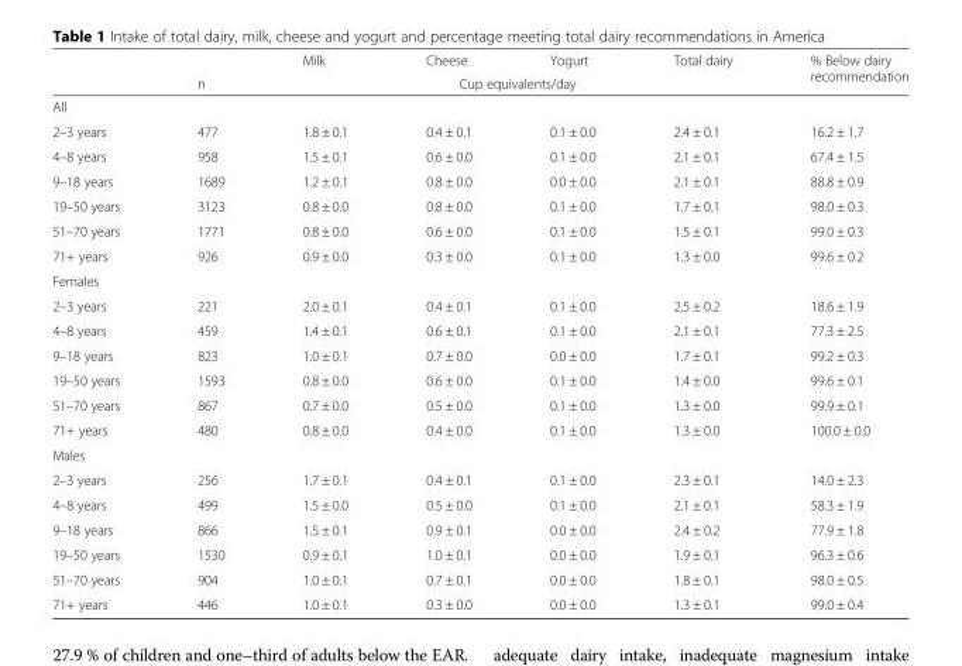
<table><thead><tr><td rowspan="2"></td><td rowspan="2">n</td><td>Milk</td><td>Cheese</td><td>Yogurt</td><td>Total dairy</td><td rowspan="2">% Below dairy recommendation</td></tr><tr><td colspan="4">Cup equivalents/day</td></tr></thead><tbody><tr><td colspan="7">All</td></tr><tr><td>2–3 years</td><td>477</td><td>1.8 ± 0.1</td><td>0.4 ± 0.1</td><td>0.1 ± 0.0</td><td>2.4 ± 0.1</td><td>16.2 ± 1.7</td></tr><tr><td>4–8 years</td><td>958</td><td>1.5 ± 0.1</td><td>0.6 ± 0.0</td><td>0.1 ± 0.0</td><td>2.1 ± 0.1</td><td>67.4 ± 1.5</td></tr><tr><td>9–18 years</td><td>1689</td><td>1.2 ± 0.1</td><td>0.8 ± 0.0</td><td>0.0 ± 0.0</td><td>2.1 ± 0.1</td><td>88.8 ± 0.9</td></tr><tr><td>19–50 years</td><td>3123</td><td>0.8 ± 0.0</td><td>0.8 ± 0.0</td><td>0.1 ± 0.0</td><td>1.7 ± 0.1</td><td>98.0 ± 0.3</td></tr><tr><td>51–70 years</td><td>1771</td><td>0.8 ± 0.0</td><td>0.6 ± 0.0</td><td>0.1 ± 0.0</td><td>1.5 ± 0.1</td><td>99.0 ± 0.3</td></tr><tr><td>71+ years</td><td>926</td><td>0.9 ± 0.0</td><td>0.3 ± 0.0</td><td>0.1 ± 0.0</td><td>1.3 ± 0.0</td><td>99.6 ± 0.2</td></tr><tr><td colspan="7">Females</td></tr><tr><td>2–3 years</td><td>221</td><td>2.0 ± 0.1</td><td>0.4 ± 0.1</td><td>0.1 ± 0.0</td><td>2.5 ± 0.2</td><td>18.6 ± 1.9</td></tr><tr><td>4–8 years</td><td>459</td><td>1.4 ± 0.1</td><td>0.6 ± 0.1</td><td>0.1 ± 0.0</td><td>2.1 ± 0.1</td><td>77.3 ± 2.5</td></tr><tr><td>9–18 years</td><td>823</td><td>1.0 ± 0.1</td><td>0.7 ± 0.0</td><td>0.0 ± 0.0</td><td>1.7 ± 0.1</td><td>99.2 ± 0.3</td></tr><tr><td>19–50 years</td><td>1593</td><td>0.8 ± 0.0</td><td>0.6 ± 0.0</td><td>0.1 ± 0.0</td><td>1.4 ± 0.0</td><td>99.6 ± 0.1</td></tr><tr><td>51–70 years</td><td>867</td><td>0.7 ± 0.0</td><td>0.5 ± 0.0</td><td>0.1 ± 0.0</td><td>1.3 ± 0.0</td><td>99.9 ± 0.1</td></tr><tr><td>71+ years</td><td>480</td><td>0.8 ± 0.0</td><td>0.4 ± 0.0</td><td>0.1 ± 0.0</td><td>1.3 ± 0.0</td><td>100.0 ± 0.0</td></tr><tr><td colspan="7">Males</td></tr><tr><td>2–3 years</td><td>256</td><td>1.7 ± 0.1</td><td>0.4 ± 0.1</td><td>0.1 ± 0.0</td><td>2.3 ± 0.1</td><td>14.0 ± 2.3</td></tr><tr><td>4–8 years</td><td>499</td><td>1.5 ± 0.0</td><td>0.5 ± 0.0</td><td>0.1 ± 0.0</td><td>2.1 ± 0.1</td><td>58.3 ± 1.9</td></tr><tr><td>9–18 years</td><td>866</td><td>1.5 ± 0.1</td><td>0.9 ± 0.1</td><td>0.0 ± 0.0</td><td>2.4 ± 0.2</td><td>77.9 ± 1.8</td></tr><tr><td>19–50 years</td><td>1530</td><td>0.9 ± 0.1</td><td>1.0 ± 0.1</td><td>0.0 ± 0.0</td><td>1.9 ± 0.1</td><td>96.3 ± 0.6</td></tr><tr><td>51–70 years</td><td>904</td><td>1.0 ± 0.1</td><td>0.7 ± 0.1</td><td>0.0 ± 0.0</td><td>1.8 ± 0.1</td><td>98.0 ± 0.5</td></tr><tr><td>71+ years</td><td>446</td><td>1.0 ± 0.1</td><td>0.3 ± 0.0</td><td>0.0 ± 0.0</td><td>1.3 ± 0.1</td><td>99.0 ± 0.4</td></tr></tbody></table>